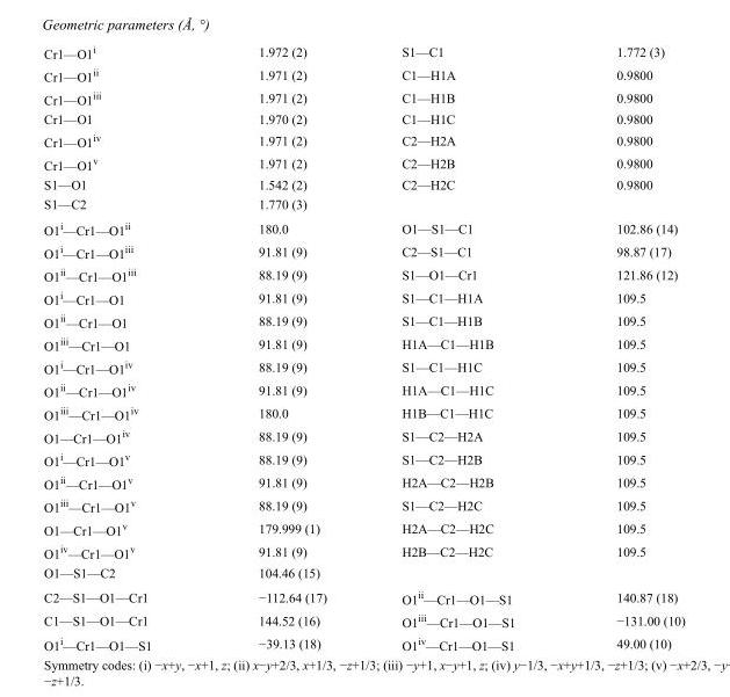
<table><tbody><tr><td>Cr1—O1<sup>i</sup></td><td>1.972 (2)</td><td>S1—C1</td><td>1.772 (3)</td></tr><tr><td>Cr1—O1<sup>ii</sup></td><td>1.971 (2)</td><td>C1—H1A</td><td>0.9800</td></tr><tr><td>Cr1—O1<sup>iii</sup></td><td>1.971 (2)</td><td>C1—H1B</td><td>0.9800</td></tr><tr><td>Cr1—O1</td><td>1.970 (2)</td><td>C1—H1C</td><td>0.9800</td></tr><tr><td>Cr1—O1<sup>iv</sup></td><td>1.971 (2)</td><td>C2—H2A</td><td>0.9800</td></tr><tr><td>Cr1—O1<sup>v</sup></td><td>1.971 (2)</td><td>C2—H2B</td><td>0.9800</td></tr><tr><td>S1—O1</td><td>1.542 (2)</td><td>C2—H2C</td><td>0.9800</td></tr><tr><td>S1—C2</td><td>1.770 (3)</td><td></td><td></td></tr><tr><td>O1<sup>i</sup>—Cr1—O1<sup>ii</sup></td><td>180.0</td><td>O1—S1—C1</td><td>102.86 (14)</td></tr><tr><td>O1<sup>i</sup>—Cr1—O1<sup>iii</sup></td><td>91.81 (9)</td><td>C2—S1—C1</td><td>98.87 (17)</td></tr><tr><td>O1<sup>ii</sup>—Cr1—O1<sup>iii</sup></td><td>88.19 (9)</td><td>S1—O1—Cr1</td><td>121.86 (12)</td></tr><tr><td>O1<sup>i</sup>—Cr1—O1</td><td>91.81 (9)</td><td>S1—C1—H1A</td><td>109.5</td></tr><tr><td>O1<sup>ii</sup>—Cr1—O1</td><td>88.19 (9)</td><td>S1—C1—H1B</td><td>109.5</td></tr><tr><td>O1<sup>iii</sup>—Cr1—O1</td><td>91.81 (9)</td><td>H1A—C1—H1B</td><td>109.5</td></tr><tr><td>O1<sup>i</sup>—Cr1—O1<sup>iv</sup></td><td>88.19 (9)</td><td>S1—C1—H1C</td><td>109.5</td></tr><tr><td>O1<sup>ii</sup>—Cr1—O1<sup>iv</sup></td><td>91.81 (9)</td><td>H1A—C1—H1C</td><td>109.5</td></tr><tr><td>O1<sup>iii</sup>—Cr1—O1<sup>iv</sup></td><td>180.0</td><td>H1B—C1—H1C</td><td>109.5</td></tr><tr><td>O1—Cr1—O1<sup>iv</sup></td><td>88.19 (9)</td><td>S1—C2—H2A</td><td>109.5</td></tr><tr><td>O1<sup>i</sup>—Cr1—O1<sup>v</sup></td><td>88.19 (9)</td><td>S1—C2—H2B</td><td>109.5</td></tr><tr><td>O1<sup>ii</sup>—Cr1—O1<sup>v</sup></td><td>91.81 (9)</td><td>H2A—C2—H2B</td><td>109.5</td></tr><tr><td>O1<sup>iii</sup>—Cr1—O1<sup>v</sup></td><td>88.19 (9)</td><td>S1—C2—H2C</td><td>109.5</td></tr><tr><td>O1—Cr1—O1<sup>v</sup></td><td>179.999 (1)</td><td>H2A—C2—H2C</td><td>109.5</td></tr><tr><td>O1<sup>iv</sup>—Cr1—O1<sup>v</sup></td><td>91.81 (9)</td><td>H2B—C2—H2C</td><td>109.5</td></tr><tr><td>O1—S1—C2</td><td>104.46 (15)</td><td></td><td></td></tr><tr><td>C2—S1—O1—Cr1</td><td>−112.64 (17)</td><td>O1<sup>ii</sup>—Cr1—O1—S1</td><td>140.87 (18)</td></tr><tr><td>C1—S1—O1—Cr1</td><td>144.52 (16)</td><td>O1<sup>iii</sup>—Cr1—O1—S1</td><td>−131.00 (10)</td></tr><tr><td>O1<sup>i</sup>—Cr1—O1—S1</td><td>−39.13 (18)</td><td>O1<sup>iv</sup>—Cr1—O1—S1</td><td>49.00 (10)</td></tr></tbody></table>